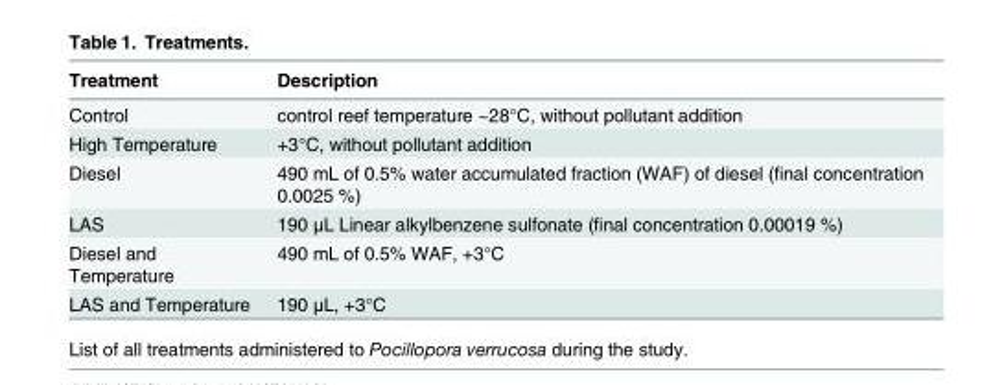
<table><thead><tr><td>Treatment</td><td>Description</td></tr></thead><tbody><tr><td>Control</td><td>control reef temperature ~28°C, without pollutant addition</td></tr><tr><td>High Temperature</td><td>+3°C, without pollutant addition</td></tr><tr><td>Diesel</td><td>490 mL of 0.5% water accumulated fraction (WAF) of diesel (final concentration 0.0025 %)</td></tr><tr><td>LAS</td><td>190 μL Linear alkylbenzene sulfonate (final concentration 0.00019 %)</td></tr><tr><td>Diesel and Temperature</td><td>490 mL of 0.5% WAF, +3°C</td></tr><tr><td>LAS and Temperature</td><td>190 μL, +3°C</td></tr></tbody></table>